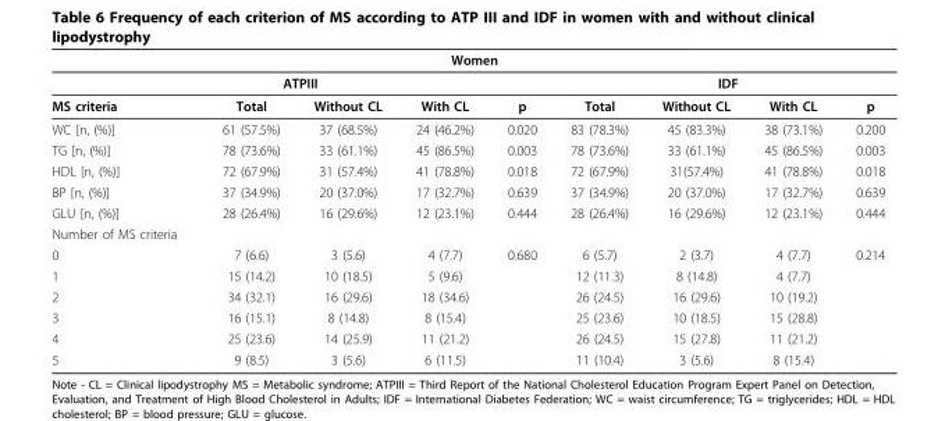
<table><thead><tr><td colspan="9">Women</td></tr><tr><td colspan="5">ATPIII</td><td colspan="4">IDF</td></tr><tr><td>MS criteria</td><td>Total</td><td>Without CL</td><td>With CL</td><td>p</td><td>Total</td><td>Without CL</td><td>With CL</td><td>p</td></tr></thead><tbody><tr><td>WC [n, (%)]</td><td>61 (57.5%)</td><td>37 (68.5%)</td><td>24 (46.2%)</td><td>0.020</td><td>83 (78.3%)</td><td>45 (83.3%)</td><td>38 (73.1%)</td><td>0.200</td></tr><tr><td>TG [n, (%)]</td><td>78 (73.6%)</td><td>33 (61.1%)</td><td>45 (86.5%)</td><td>0.003</td><td>78 (73.6%)</td><td>33 (61.1%)</td><td>45 (86.5%)</td><td>0.003</td></tr><tr><td>HDL [n, (%)]</td><td>72 (67.9%)</td><td>31 (57.4%)</td><td>41 (78.8%)</td><td>0.018</td><td>72 (67.9%)</td><td>31(57.4%)</td><td>41 (78.8%)</td><td>0.018</td></tr><tr><td>BP [n, (%)]</td><td>37 (34.9%)</td><td>20 (37.0%)</td><td>17 (32.7%)</td><td>0.639</td><td>37 (34.9%)</td><td>20 (37.0%)</td><td>17 (32.7%)</td><td>0.639</td></tr><tr><td>GLU [n, (%)]</td><td>28 (26.4%)</td><td>16 (29.6%)</td><td>12 (23.1%)</td><td>0.444</td><td>28 (26.4%)</td><td>16 (29.6%)</td><td>12 (23.1%)</td><td>0.444</td></tr><tr><td colspan="9">Number of MS criteria</td></tr><tr><td>0</td><td>7 (6.6)</td><td>3 (5.6)</td><td>4 (7.7)</td><td>0.680</td><td>6 (5.7)</td><td>2 (3.7)</td><td>4 (7.7)</td><td>0.214</td></tr><tr><td>1</td><td>15 (14.2)</td><td>10 (18.5)</td><td>5 (9.6)</td><td></td><td>12 (11.3)</td><td>8 (14.8)</td><td>4 (7.7)</td><td></td></tr><tr><td>2</td><td>34 (32.1)</td><td>16 (29.6)</td><td>18 (34.6)</td><td></td><td>26 (24.5)</td><td>16 (29.6)</td><td>10 (19.2)</td><td></td></tr><tr><td>3</td><td>16 (15.1)</td><td>8 (14.8)</td><td>8 (15.4)</td><td></td><td>25 (23.6)</td><td>10 (18.5)</td><td>15 (28.8)</td><td></td></tr><tr><td>4</td><td>25 (23.6)</td><td>14 (25.9)</td><td>11 (21.2)</td><td></td><td>26 (24.5)</td><td>15 (27.8)</td><td>11 (21.2)</td><td></td></tr><tr><td>5</td><td>9 (8.5)</td><td>3 (5.6)</td><td>6 (11.5)</td><td></td><td>11 (10.4)</td><td>3 (5.6)</td><td>8 (15.4)</td><td></td></tr></tbody></table>